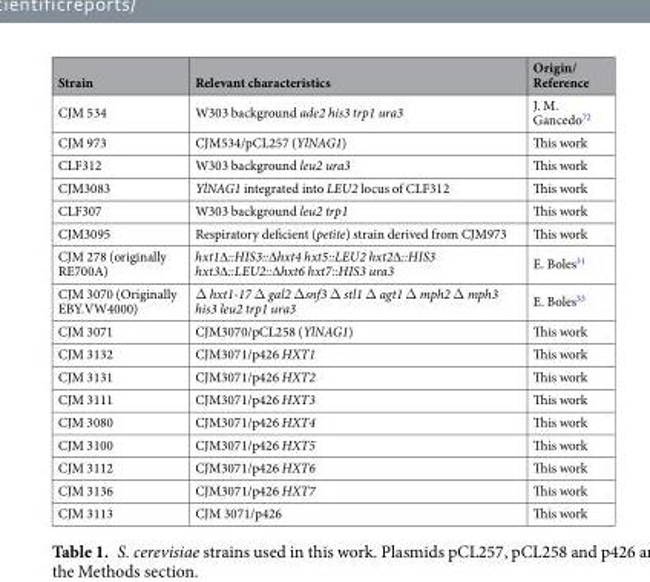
<table><thead><tr><td>Strain</td><td>Relevant characteristics</td><td>Origin/ Reference</td></tr></thead><tbody><tr><td>CJM 534</td><td>W303 background ade2 his3 trp1 ura3</td><td>J. M. Gancedo<sup>72</sup></td></tr><tr><td>CJM 973</td><td>CJM534/pCL257 (YlNAG1)</td><td>This work</td></tr><tr><td>CLF312</td><td>W303 background leu2 ura3</td><td>This work</td></tr><tr><td>CJM3083</td><td>YlNAG1 integrated into LEU2 locus of CLF312</td><td>This work</td></tr><tr><td>CLF307</td><td>W303 background leu2 trp1</td><td>This work</td></tr><tr><td>CJM3095</td><td>Respiratory deficient (petite) strain derived from CJM973</td><td>This work</td></tr><tr><td>CJM 278 (originally RE700A)</td><td>hxt1∆::HIS3::∆hxt4 hxt5::LEU2 hxt2∆::HIS3 hxt3∆::LEU2::∆hxt6 hxt7::HIS3 ura3</td><td>E. Boles<sup>31</sup></td></tr><tr><td>CJM 3070 (Originally EBY.VW4000)</td><td>Δ hxt1-17 Δ gal2 Δsnf3 Δ stl1 Δ agt1 Δ mph2 Δ mph3 his3 leu2 trp1 ura3</td><td>E. Boles<sup>33</sup></td></tr><tr><td>CJM 3071</td><td>CJM3070/pCL258 (YlNAG1)</td><td>This work</td></tr><tr><td>CJM 3132</td><td>CJM3071/p426 HXT1</td><td>This work</td></tr><tr><td>CJM 3131</td><td>CJM3071/p426 HXT2</td><td>This work</td></tr><tr><td>CJM 3111</td><td>CJM3071/p426 HXT3</td><td>This work</td></tr><tr><td>CJM 3080</td><td>CJM3071/p426 HXT4</td><td>This work</td></tr><tr><td>CJM 3100</td><td>CJM3071/p426 HXT5</td><td>This work</td></tr><tr><td>CJM 3112</td><td>CJM3071/p426 HXT6</td><td>This work</td></tr><tr><td>CJM 3136</td><td>CJM3071/p426 HXT7</td><td>This work</td></tr><tr><td>CJM 3113</td><td>CJM 3071/p426</td><td>This work</td></tr></tbody></table>